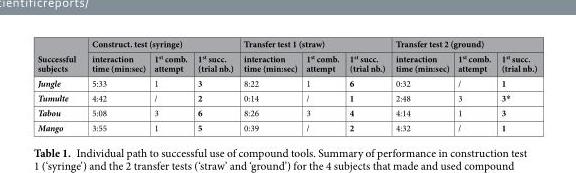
<table><thead><tr><td rowspan="2">Successful subjects</td><td colspan="3">Construct. test (syringe)</td><td colspan="3">Transfer test 1 (straw)</td><td colspan="3">Transfer test 2 (ground)</td></tr><tr><td>interaction time (min:sec)</td><td>1<sup>st</sup> comb. attempt</td><td>1<sup>st</sup> succ. (trial nb.)</td><td>interaction time (min:sec)</td><td>1<sup>st</sup> comb. attempt</td><td>1<sup>st</sup> succ. (trial nb.)</td><td>interaction time (min:sec)</td><td>1<sup>st</sup> comb. attempt</td><td>1<sup>st</sup> succ. (trial nb.)</td></tr></thead><tbody><tr><td>Jungle</td><td>5:33</td><td>1</td><td>3</td><td>8:22</td><td>1</td><td>6</td><td>0:32</td><td>/</td><td>1</td></tr><tr><td>Tumulte</td><td>4:42</td><td>/</td><td>2</td><td>0:14</td><td>/</td><td>1</td><td>2:48</td><td>3</td><td>3*</td></tr><tr><td>Tabou</td><td>5:08</td><td>3</td><td>6</td><td>8:26</td><td>3</td><td>4</td><td>4:14</td><td>1</td><td>3</td></tr><tr><td>Mango</td><td>3:55</td><td>1</td><td>5</td><td>0:39</td><td>/</td><td>2</td><td>4:32</td><td>/</td><td>1</td></tr></tbody></table>